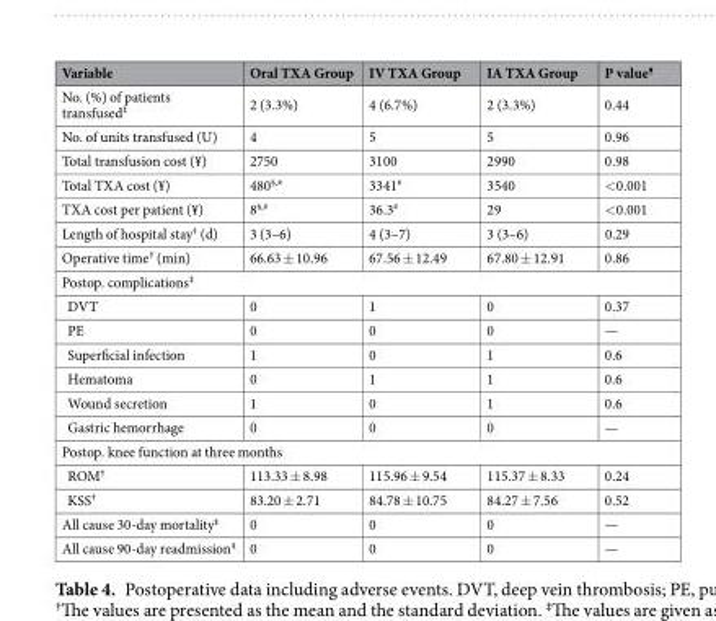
<table><thead><tr><td>Variable</td><td>Oral TXA Group</td><td>IV TXA Group</td><td>IA TXA Group</td><td>P value<sup>¶</sup></td></tr></thead><tbody><tr><td>No. (%) of patients transfused<sup>‡</sup></td><td>2 (3.3%)</td><td>4 (6.7%)</td><td>2 (3.3%)</td><td>0.44</td></tr><tr><td>No. of units transfused (U)</td><td>4</td><td>5</td><td>5</td><td>0.96</td></tr><tr><td>Total transfusion cost (¥)</td><td>2750</td><td>3100</td><td>2990</td><td>0.98</td></tr><tr><td>Total TXA cost (¥)</td><td>480<sup>§,#</sup></td><td>3341<sup>#</sup></td><td>3540</td><td>&lt;0.001</td></tr><tr><td>TXA cost per patient (¥)</td><td>8<sup>§,#</sup></td><td>36.3<sup>#</sup></td><td>29</td><td>&lt;0.001</td></tr><tr><td>Length of hospital stay<sup>†</sup> (d)</td><td>3 (3–6)</td><td>4 (3–7)</td><td>3 (3–6)</td><td>0.29</td></tr><tr><td>Operative time<sup>†</sup> (min)</td><td>66.63 ± 10.96</td><td>67.56 ± 12.49</td><td>67.80 ± 12.91</td><td>0.86</td></tr><tr><td colspan="5">Postop. complications<sup>‡</sup></td></tr><tr><td>DVT</td><td>0</td><td>1</td><td>0</td><td>0.37</td></tr><tr><td>PE</td><td>0</td><td>0</td><td>0</td><td>—</td></tr><tr><td>Superficial infection</td><td>1</td><td>0</td><td>1</td><td>0.6</td></tr><tr><td>Hematoma</td><td>0</td><td>1</td><td>1</td><td>0.6</td></tr><tr><td>Wound secretion</td><td>1</td><td>0</td><td>1</td><td>0.6</td></tr><tr><td>Gastric hemorrhage</td><td>0</td><td>0</td><td>0</td><td>—</td></tr><tr><td colspan="5">Postop. knee function at three months</td></tr><tr><td>ROM<sup>†</sup></td><td>113.33 ± 8.98</td><td>115.96 ± 9.54</td><td>115.37 ± 8.33</td><td>0.24</td></tr><tr><td>KSS<sup>†</sup></td><td>83.20 ± 2.71</td><td>84.78 ± 10.75</td><td>84.27 ± 7.56</td><td>0.52</td></tr><tr><td>All cause 30-day mortality<sup>‡</sup></td><td>0</td><td>0</td><td>0</td><td>—</td></tr><tr><td>All cause 90-day readmission<sup>‡</sup></td><td>0</td><td>0</td><td>0</td><td>—</td></tr></tbody></table>